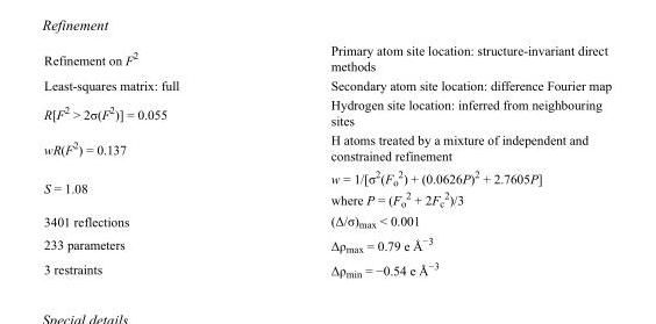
<table><tbody><tr><td>Refinement on F<sup>2</sup></td><td>Primary atom site location: structure-invariant direct methods</td></tr><tr><td>Least-squares matrix: full</td><td>Secondary atom site location: difference Fourier map</td></tr><tr><td>R[F<sup>2</sup> &gt; 2σ(F<sup>2</sup>)] = 0.055</td><td>Hydrogen site location: inferred from neighbouring sites</td></tr><tr><td>wR(F<sup>2</sup>) = 0.137</td><td>H atoms treated by a mixture of independent and constrained refinement</td></tr><tr><td>S = 1.08</td><td>w = 1/[σ<sup>2</sup>(F<sub>o</sub> <sup>2</sup>) + (0.0626P)<sup>2</sup> + 2.7605P] where P = (F<sub>o</sub> <sup>2</sup> + 2F<sub>c</sub> <sup>2</sup>)/3</td></tr><tr><td>3401 reflections</td><td>(Δ/σ)<sub>max</sub> &lt; 0.001</td></tr><tr><td>233 parameters</td><td>Δρ<sub>max</sub> = 0.79 e Å<sup>−3</sup></td></tr><tr><td>3 restraints</td><td>Δρ<sub>min</sub> = −0.54 e Å<sup>−3</sup></td></tr></tbody></table>